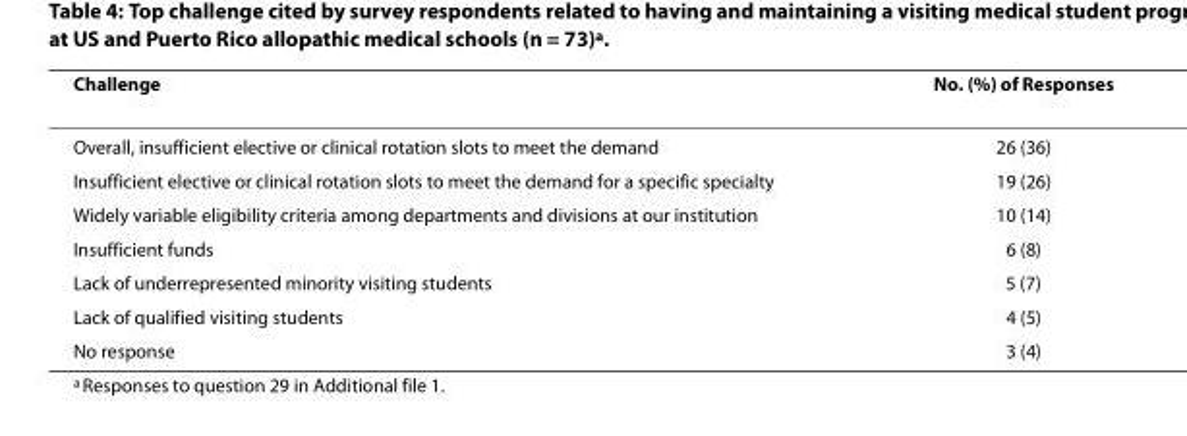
<table><thead><tr><td>Challenge</td><td>No. (%) of Responses</td></tr></thead><tbody><tr><td>Overall, insufficient elective or clinical rotation slots to meet the demand</td><td>26 (36)</td></tr><tr><td>Insufficient elective or clinical rotation slots to meet the demand for a specific specialty</td><td>19 (26)</td></tr><tr><td>Widely variable eligibility criteria among departments and divisions at our institution</td><td>10 (14)</td></tr><tr><td>Insufficient funds</td><td>6 (8)</td></tr><tr><td>Lack of underrepresented minority visiting students</td><td>5 (7)</td></tr><tr><td>Lack of qualified visiting students</td><td>4 (5)</td></tr><tr><td>No response</td><td>3 (4)</td></tr></tbody></table>